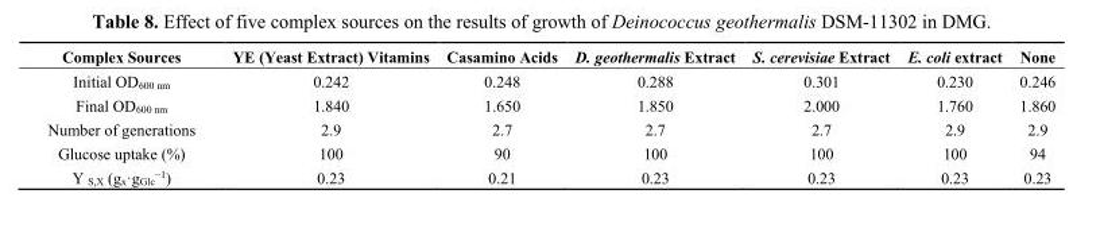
<table><thead><tr><td>Complex Sources</td><td>YE (Yeast Extract) Vitamins</td><td>Casamino Acids</td><td>D. geothermalis Extract</td><td>S. cerevisiae Extract</td><td>E. coli extract</td><td>None</td></tr></thead><tbody><tr><td>Initial OD<sub>600 nm</sub></td><td>0.242</td><td>0.248</td><td>0.288</td><td>0.301</td><td>0.230</td><td>0.246</td></tr><tr><td>Final OD<sub>600 nm</sub></td><td>1.840</td><td>1.650</td><td>1.850</td><td>2.000</td><td>1.760</td><td>1.860</td></tr><tr><td>Number of generations</td><td>2.9</td><td>2.7</td><td>2.7</td><td>2.7</td><td>2.9</td><td>2.9</td></tr><tr><td>Glucose uptake (%)</td><td>100</td><td>90</td><td>100</td><td>100</td><td>100</td><td>94</td></tr><tr><td>Y <sub>S,X</sub> (g<sub>x</sub>·g<sub>Glc</sub><sup>−1</sup>)</td><td>0.23</td><td>0.21</td><td>0.23</td><td>0.23</td><td>0.23</td><td>0.23</td></tr></tbody></table>